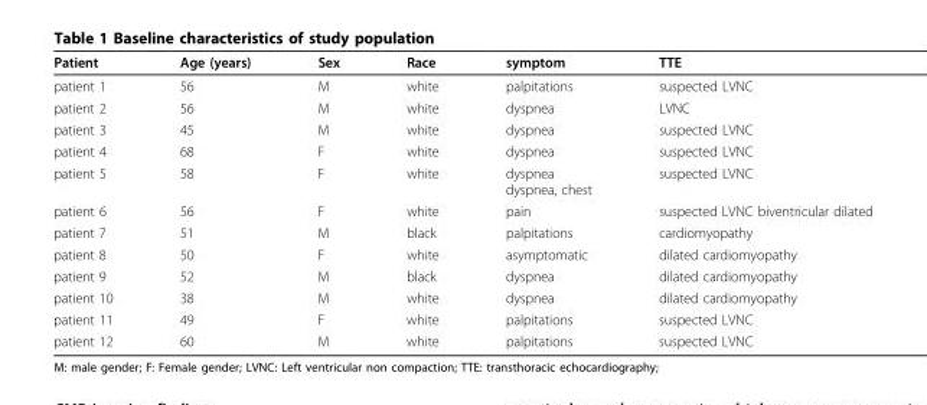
<table><thead><tr><td>Patient</td><td>Age (years)</td><td>Sex</td><td>Race</td><td>symptom</td><td>TTE</td></tr></thead><tbody><tr><td>patient 1</td><td>56</td><td>M</td><td>white</td><td>palpitations</td><td>suspected LVNC</td></tr><tr><td>patient 2</td><td>56</td><td>M</td><td>white</td><td>dyspnea</td><td>LVNC</td></tr><tr><td>patient 3</td><td>45</td><td>M</td><td>white</td><td>dyspnea</td><td>suspected LVNC</td></tr><tr><td>patient 4</td><td>68</td><td>F</td><td>white</td><td>dyspnea</td><td>suspected LVNC</td></tr><tr><td>patient 5</td><td>58</td><td>F</td><td>white</td><td>dyspnea dyspnea, chest</td><td>suspected LVNC</td></tr><tr><td>patient 6</td><td>56</td><td>F</td><td>white</td><td>pain</td><td>suspected LVNC biventricular dilated</td></tr><tr><td>patient 7</td><td>51</td><td>M</td><td>black</td><td>palpitations</td><td>cardiomyopathy</td></tr><tr><td>patient 8</td><td>50</td><td>F</td><td>white</td><td>asymptomatic</td><td>dilated cardiomyopathy</td></tr><tr><td>patient 9</td><td>52</td><td>M</td><td>black</td><td>dyspnea</td><td>dilated cardiomyopathy</td></tr><tr><td>patient 10</td><td>38</td><td>M</td><td>white</td><td>dyspnea</td><td>dilated cardiomyopathy</td></tr><tr><td>patient 11</td><td>49</td><td>F</td><td>white</td><td>palpitations</td><td>suspected LVNC</td></tr><tr><td>patient 12</td><td>60</td><td>M</td><td>white</td><td>palpitations</td><td>suspected LVNC</td></tr></tbody></table>